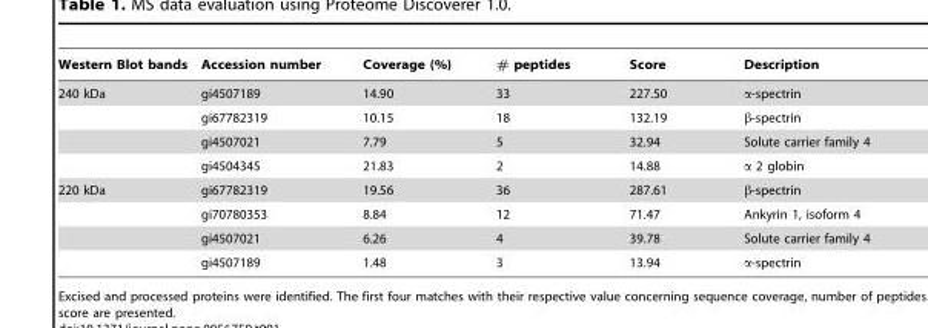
<table><thead><tr><td>Western Blot bands</td><td>Accession number</td><td>Coverage (%)</td><td># peptides</td><td>Score</td><td>Description</td></tr></thead><tbody><tr><td rowspan="4">240 kDa</td><td>gi4507189</td><td>14.90</td><td>33</td><td>227.50</td><td>α-spectrin</td></tr><tr><td>gi67782319</td><td>10.15</td><td>18</td><td>132.19</td><td>β-spectrin</td></tr><tr><td>gi4507021</td><td>7.79</td><td>5</td><td>32.94</td><td>Solute carrier family 4</td></tr><tr><td>gi4504345</td><td>21.83</td><td>2</td><td>14.88</td><td>α 2 globin</td></tr><tr><td rowspan="4">220 kDa</td><td>gi67782319</td><td>19.56</td><td>36</td><td>287.61</td><td>β-spectrin</td></tr><tr><td>gi70780353</td><td>8.84</td><td>12</td><td>71.47</td><td>Ankyrin 1, isoform 4</td></tr><tr><td>gi4507021</td><td>6.26</td><td>4</td><td>39.78</td><td>Solute carrier family 4</td></tr><tr><td>gi4507189</td><td>1.48</td><td>3</td><td>13.94</td><td>α-spectrin</td></tr></tbody></table>